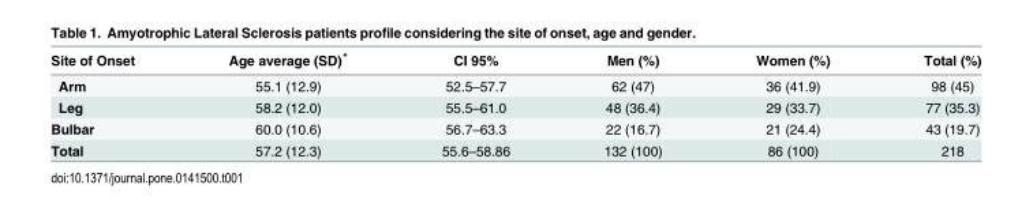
<table><thead><tr><td>Site of Onset</td><td>Age average (SD)*</td><td>CI 95%</td><td>Men (%)</td><td>Women (%)</td><td>Total (%)</td></tr></thead><tbody><tr><td>Arm</td><td>55.1 (12.9)</td><td>52.5–57.7</td><td>62 (47)</td><td>36 (41.9)</td><td>98 (45)</td></tr><tr><td>Leg</td><td>58.2 (12.0)</td><td>55.5–61.0</td><td>48 (36.4)</td><td>29 (33.7)</td><td>77 (35.3)</td></tr><tr><td>Bulbar</td><td>60.0 (10.6)</td><td>56.7–63.3</td><td>22 (16.7)</td><td>21 (24.4)</td><td>43 (19.7)</td></tr><tr><td>Total</td><td>57.2 (12.3)</td><td>55.6–58.86</td><td>132 (100)</td><td>86 (100)</td><td>218</td></tr></tbody></table>